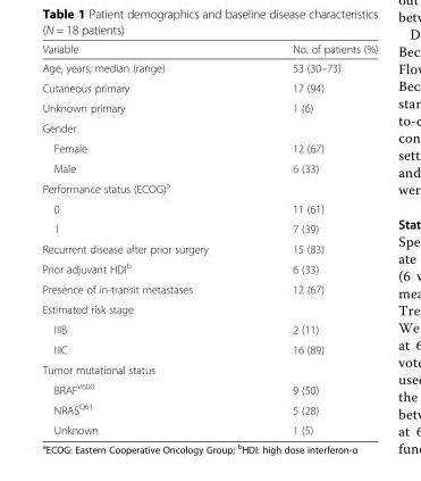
<table><thead><tr><td>Variable</td><td>No. of patients (%)</td></tr></thead><tbody><tr><td>Age, years; median (range)</td><td>53 (30–73)</td></tr><tr><td>Cutaneous primary</td><td>17 (94)</td></tr><tr><td>Unknown primary</td><td>1 (6)</td></tr><tr><td colspan="2">Gender</td></tr><tr><td>Female</td><td>12 (67)</td></tr><tr><td>Male</td><td>6 (33)</td></tr><tr><td colspan="2">Performance status (ECOG)<sup>a</sup></td></tr><tr><td>0</td><td>11 (61)</td></tr><tr><td>1</td><td>7 (39)</td></tr><tr><td>Recurrent disease after prior surgery</td><td>15 (83)</td></tr><tr><td>Prior adjuvant HDI<sup>b</sup></td><td>6 (33)</td></tr><tr><td>Presence of in-transit metastases</td><td>12 (67)</td></tr><tr><td colspan="2">Estimated risk stage</td></tr><tr><td>IIIB</td><td>2 (11)</td></tr><tr><td>IIIC</td><td>16 (89)</td></tr><tr><td colspan="2">Tumor mutational status</td></tr><tr><td>BRAF<sup>V600</sup></td><td>9 (50)</td></tr><tr><td>NRAS<sup>Q61</sup></td><td>5 (28)</td></tr><tr><td>Unknown</td><td>1 (5)</td></tr></tbody></table>